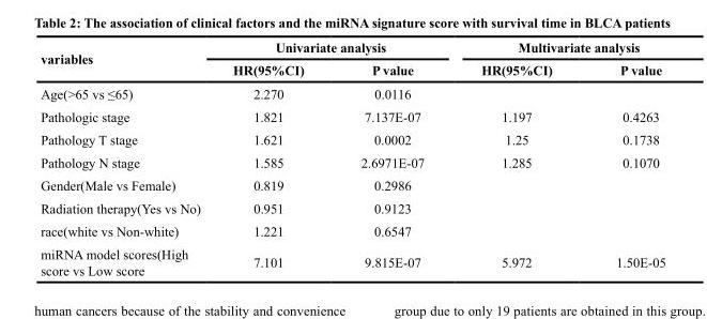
<table><thead><tr><td rowspan="2">variables</td><td colspan="2">Univariate analysis</td><td colspan="2">Multivariate analysis</td></tr><tr><td>HR(95%CI)</td><td>P value</td><td>HR(95%CI)</td><td>P value</td></tr></thead><tbody><tr><td>Age(&gt;65 vs ≤65)</td><td>2.270</td><td>0.0116</td><td></td><td></td></tr><tr><td>Pathologic stage</td><td>1.821</td><td>7.137E-07</td><td>1.197</td><td>0.4263</td></tr><tr><td>Pathology T stage</td><td>1.621</td><td>0.0002</td><td>1.25</td><td>0.1738</td></tr><tr><td>Pathology N stage</td><td>1.585</td><td>2.6971E-07</td><td>1.285</td><td>0.1070</td></tr><tr><td>Gender(Male vs Female)</td><td>0.819</td><td>0.2986</td><td></td><td></td></tr><tr><td>Radiation therapy(Yes vs No)</td><td>0.951</td><td>0.9123</td><td></td><td></td></tr><tr><td>race(white vs Non-white)</td><td>1.221</td><td>0.6547</td><td></td><td></td></tr><tr><td>miRNA model scores(High score vs Low score</td><td>7.101</td><td>9.815E-07</td><td>5.972</td><td>1.50E-05</td></tr></tbody></table>